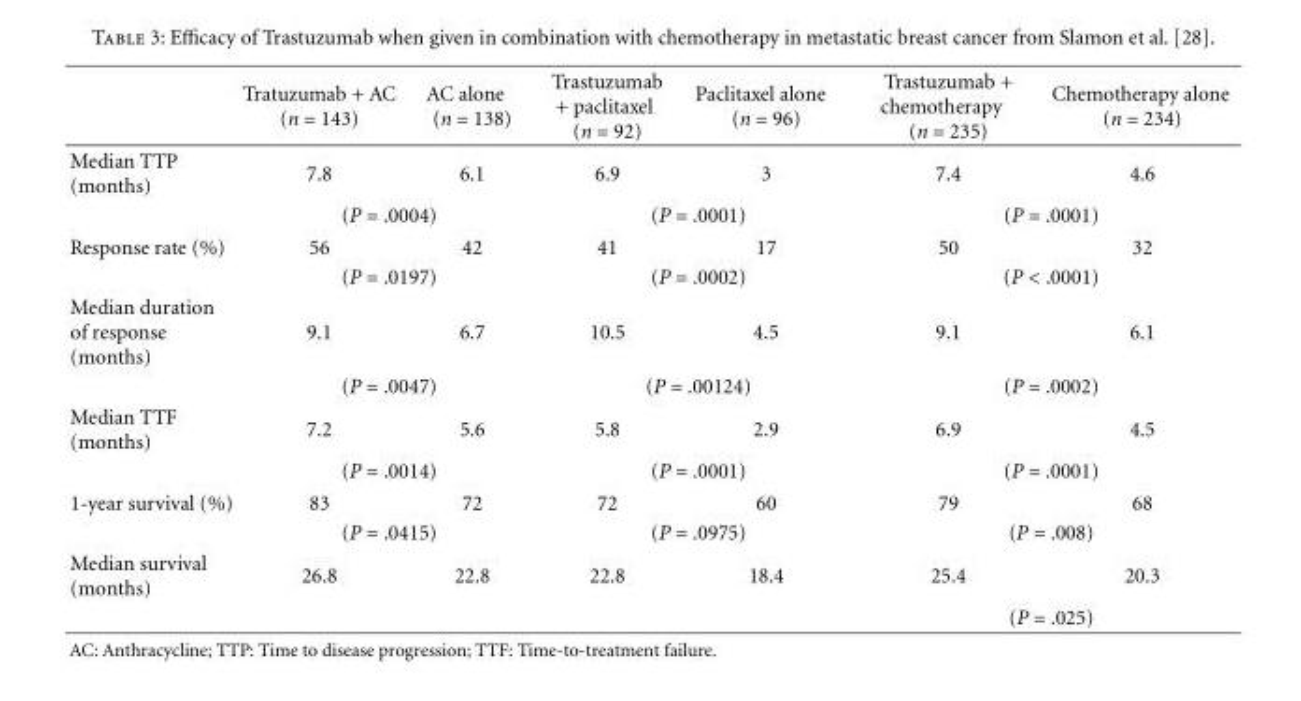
<table><thead><tr><td></td><td>Tratuzumab + AC (n = 143)</td><td>AC alone (n = 138)</td><td>Trastuzumab + paclitaxel (n = 92)</td><td>Paclitaxel alone (n = 96)</td><td>Trastuzumab + chemotherapy (n = 235)</td><td>Chemotherapy alone (n = 234)</td></tr></thead><tbody><tr><td rowspan="2">Median TTP (months)</td><td>7.8</td><td>6.1</td><td>6.9</td><td>3</td><td>7.4</td><td>4.6</td></tr><tr><td colspan="2">(P = .0004)</td><td colspan="2">(P = .0001)</td><td colspan="2">(P = .0001)</td></tr><tr><td rowspan="2">Response rate (%)</td><td>56</td><td>42</td><td>41</td><td>17</td><td>50</td><td>32</td></tr><tr><td colspan="2">(P = .0197)</td><td colspan="2">(P = .0002)</td><td colspan="2">(P &lt; .0001)</td></tr><tr><td rowspan="2">Median duration of response (months)</td><td>9.1</td><td>6.7</td><td>10.5</td><td>4.5</td><td>9.1</td><td>6.1</td></tr><tr><td colspan="2">(P = .0047)</td><td colspan="2">(P = .00124)</td><td colspan="2">(P = .0002)</td></tr><tr><td rowspan="2">Median TTF (months)</td><td>7.2</td><td>5.6</td><td>5.8</td><td>2.9</td><td>6.9</td><td>4.5</td></tr><tr><td colspan="2">(P = .0014)</td><td colspan="2">(P = .0001)</td><td colspan="2">(P = .0001)</td></tr><tr><td rowspan="2">1-year survival (%)</td><td>83</td><td>72</td><td>72</td><td>60</td><td>79</td><td>68</td></tr><tr><td colspan="2">(P = .0415)</td><td colspan="2">(P = .0975)</td><td colspan="2">(P = .008)</td></tr><tr><td rowspan="2">Median survival (months)</td><td>26.8</td><td>22.8</td><td>22.8</td><td>18.4</td><td>25.4</td><td>20.3</td></tr><tr><td></td><td></td><td></td><td></td><td colspan="2">(P = .025)</td></tr></tbody></table>